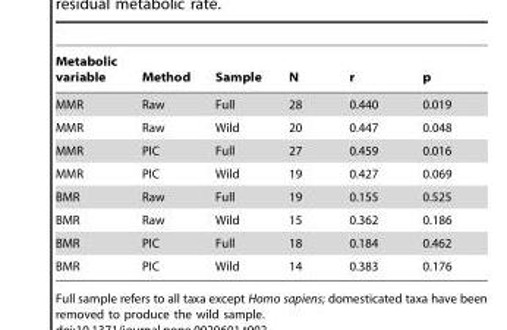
<table><thead><tr><td>Metabolic variable</td><td>Method</td><td>Sample</td><td>N</td><td>r</td><td>p</td></tr></thead><tbody><tr><td>MMR</td><td>Raw</td><td>Full</td><td>28</td><td>0.440</td><td>0.019</td></tr><tr><td>MMR</td><td>Raw</td><td>Wild</td><td>20</td><td>0.447</td><td>0.048</td></tr><tr><td>MMR</td><td>PIC</td><td>Full</td><td>27</td><td>0.459</td><td>0.016</td></tr><tr><td>MMR</td><td>PIC</td><td>Wild</td><td>19</td><td>0.427</td><td>0.069</td></tr><tr><td>BMR</td><td>Raw</td><td>Full</td><td>19</td><td>0.155</td><td>0.525</td></tr><tr><td>BMR</td><td>Raw</td><td>Wild</td><td>15</td><td>0.362</td><td>0.186</td></tr><tr><td>BMR</td><td>PIC</td><td>Full</td><td>18</td><td>0.184</td><td>0.462</td></tr><tr><td>BMR</td><td>PIC</td><td>Wild</td><td>14</td><td>0.383</td><td>0.176</td></tr></tbody></table>